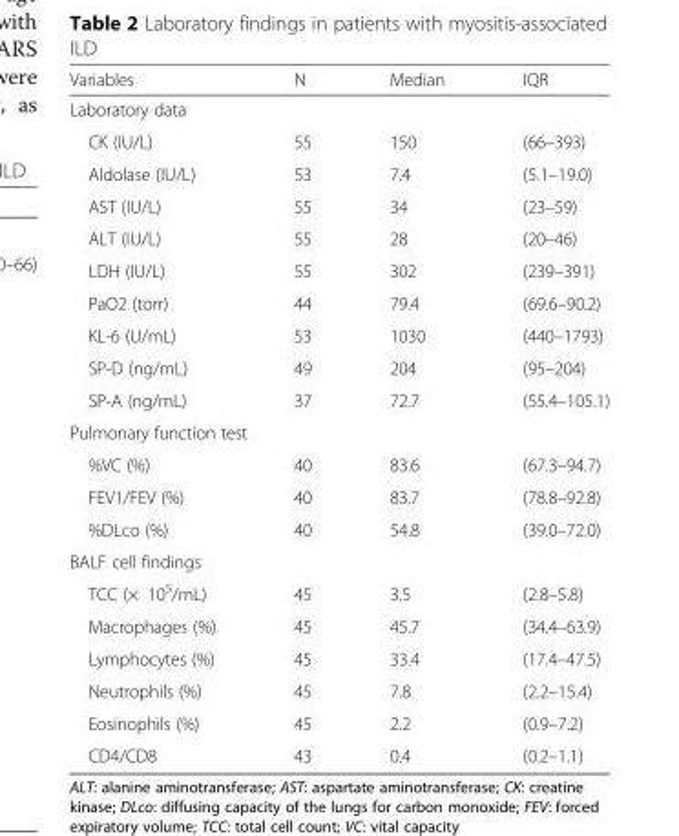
<table><thead><tr><td>Variables</td><td>N</td><td>Median</td><td>IQR</td></tr></thead><tbody><tr><td colspan="4">Laboratory data</td></tr><tr><td>CK (IU/L)</td><td>55</td><td>150</td><td>(66–393)</td></tr><tr><td>Aldolase (IU/L)</td><td>53</td><td>7.4</td><td>(5.1–19.0)</td></tr><tr><td>AST (IU/L)</td><td>55</td><td>34</td><td>(23–59)</td></tr><tr><td>ALT (IU/L)</td><td>55</td><td>28</td><td>(20–46)</td></tr><tr><td>LDH (IU/L)</td><td>55</td><td>302</td><td>(239–391)</td></tr><tr><td>PaO2 (torr)</td><td>44</td><td>79.4</td><td>(69.6–90.2)</td></tr><tr><td>KL-6 (U/mL)</td><td>53</td><td>1030</td><td>(440–1793)</td></tr><tr><td>SP-D (ng/mL)</td><td>49</td><td>204</td><td>(95–204)</td></tr><tr><td>SP-A (ng/mL)</td><td>37</td><td>72.7</td><td>(55.4–105.1)</td></tr><tr><td colspan="4">Pulmonary function test</td></tr><tr><td>%VC (%)</td><td>40</td><td>83.6</td><td>(67.3–94.7)</td></tr><tr><td>FEV1/FEV (%)</td><td>40</td><td>83.7</td><td>(78.8–92.8)</td></tr><tr><td>%DLco (%)</td><td>40</td><td>54.8</td><td>(39.0–72.0)</td></tr><tr><td colspan="4">BALF cell findings</td></tr><tr><td>TCC (× 10<sup>5</sup>/mL)</td><td>45</td><td>3.5</td><td>(2.8–5.8)</td></tr><tr><td>Macrophages (%)</td><td>45</td><td>45.7</td><td>(34.4–63.9)</td></tr><tr><td>Lymphocytes (%)</td><td>45</td><td>33.4</td><td>(17.4–47.5)</td></tr><tr><td>Neutrophils (%)</td><td>45</td><td>7.8</td><td>(2.2–15.4)</td></tr><tr><td>Eosinophils (%)</td><td>45</td><td>2.2</td><td>(0.9–7.2)</td></tr><tr><td>CD4/CD8</td><td>43</td><td>0.4</td><td>(0.2–1.1)</td></tr></tbody></table>